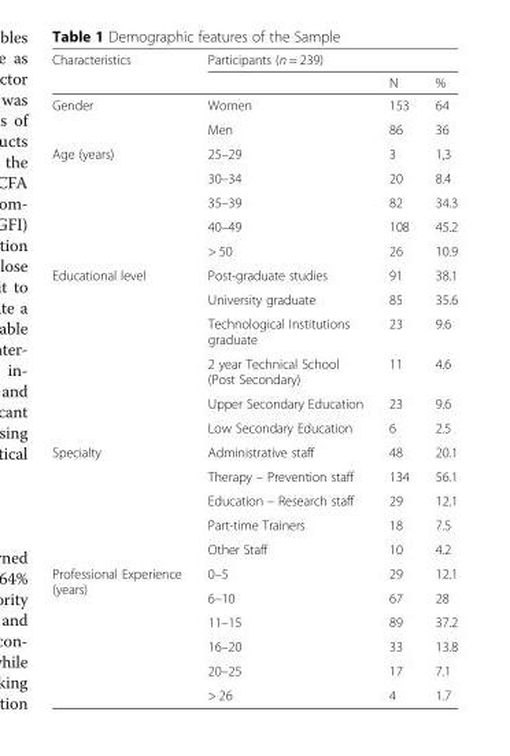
<table><thead><tr><td rowspan="2">Characteristics</td><td colspan="3">Participants (n = 239)</td></tr><tr><td></td><td>N</td><td>%</td></tr></thead><tbody><tr><td rowspan="2">Gender</td><td>Women</td><td>153</td><td>64</td></tr><tr><td>Men</td><td>86</td><td>36</td></tr><tr><td rowspan="5">Age (years)</td><td>25–29</td><td>3</td><td>1,3</td></tr><tr><td>30–34</td><td>20</td><td>8.4</td></tr><tr><td>35–39</td><td>82</td><td>34.3</td></tr><tr><td>40–49</td><td>108</td><td>45.2</td></tr><tr><td>&gt; 50</td><td>26</td><td>10.9</td></tr><tr><td rowspan="6">Educational level</td><td>Post-graduate studies</td><td>91</td><td>38.1</td></tr><tr><td>University graduate</td><td>85</td><td>35.6</td></tr><tr><td>Τechnological Institutions graduate</td><td>23</td><td>9.6</td></tr><tr><td>2 year Technical School (Post Secondary)</td><td>11</td><td>4.6</td></tr><tr><td>Upper Secondary Education</td><td>23</td><td>9.6</td></tr><tr><td>Low Secondary Education</td><td>6</td><td>2.5</td></tr><tr><td rowspan="5">Specialty</td><td>Administrative staff</td><td>48</td><td>20.1</td></tr><tr><td>Therapy – Prevention staff</td><td>134</td><td>56.1</td></tr><tr><td>Education – Research staff</td><td>29</td><td>12.1</td></tr><tr><td>Part-time Trainers</td><td>18</td><td>7.5</td></tr><tr><td>Other Staff</td><td>10</td><td>4.2</td></tr><tr><td rowspan="6">Professional Experience (years)</td><td>0–5</td><td>29</td><td>12.1</td></tr><tr><td>6–10</td><td>67</td><td>28</td></tr><tr><td>11–15</td><td>89</td><td>37.2</td></tr><tr><td>16–20</td><td>33</td><td>13.8</td></tr><tr><td>20–25</td><td>17</td><td>7.1</td></tr><tr><td>&gt; 26</td><td>4</td><td>1.7</td></tr></tbody></table>